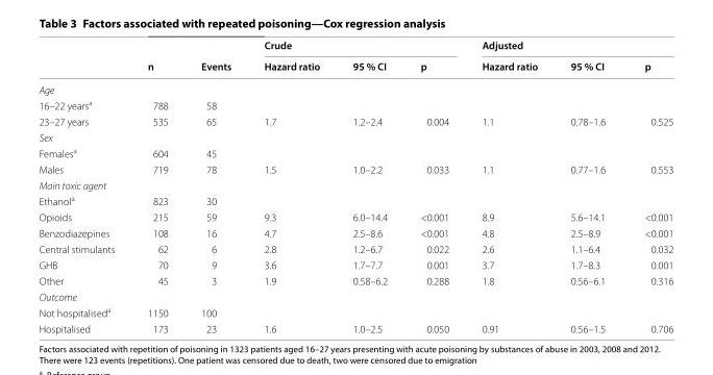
<table><thead><tr><td rowspan="2"></td><td rowspan="2">n</td><td rowspan="2">Events</td><td colspan="3">Crude</td><td colspan="3">Adjusted</td></tr><tr><td>Hazard ratio</td><td>95 % CI</td><td>p</td><td>Hazard ratio</td><td>95 % CI</td><td>p</td></tr></thead><tbody><tr><td colspan="9">Age</td></tr><tr><td>16–22 years<sup>a</sup></td><td>788</td><td>58</td><td></td><td></td><td></td><td></td><td></td><td></td></tr><tr><td>23–27 years</td><td>535</td><td>65</td><td>1.7</td><td>1.2–2.4</td><td>0.004</td><td>1.1</td><td>0.78–1.6</td><td>0.525</td></tr><tr><td colspan="9">Sex</td></tr><tr><td>Females<sup>a</sup></td><td>604</td><td>45</td><td></td><td></td><td></td><td></td><td></td><td></td></tr><tr><td>Males</td><td>719</td><td>78</td><td>1.5</td><td>1.0–2.2</td><td>0.033</td><td>1.1</td><td>0.77–1.6</td><td>0.553</td></tr><tr><td colspan="9">Main toxic agent</td></tr><tr><td>Ethanol<sup>a</sup></td><td>823</td><td>30</td><td></td><td></td><td></td><td></td><td></td><td></td></tr><tr><td>Opioids</td><td>215</td><td>59</td><td>9.3</td><td>6.0–14.4</td><td>&lt;0.001</td><td>8.9</td><td>5.6–14.1</td><td>&lt;0.001</td></tr><tr><td>Benzodiazepines</td><td>108</td><td>16</td><td>4.7</td><td>2.5–8.6</td><td>&lt;0.001</td><td>4.8</td><td>2.5–8.9</td><td>&lt;0.001</td></tr><tr><td>Central stimulants</td><td>62</td><td>6</td><td>2.8</td><td>1.2–6.7</td><td>0.022</td><td>2.6</td><td>1.1–6.4</td><td>0.032</td></tr><tr><td>GHB</td><td>70</td><td>9</td><td>3.6</td><td>1.7–7.7</td><td>0.001</td><td>3.7</td><td>1.7–8.3</td><td>0.001</td></tr><tr><td>Other</td><td>45</td><td>3</td><td>1.9</td><td>0.58–6.2</td><td>0.288</td><td>1.8</td><td>0.56–6.1</td><td>0.316</td></tr><tr><td colspan="9">Outcome</td></tr><tr><td>Not hospitalised<sup>a</sup></td><td>1150</td><td>100</td><td></td><td></td><td></td><td></td><td></td><td></td></tr><tr><td>Hospitalised</td><td>173</td><td>23</td><td>1.6</td><td>1.0–2.5</td><td>0.050</td><td>0.91</td><td>0.56–1.5</td><td>0.706</td></tr></tbody></table>